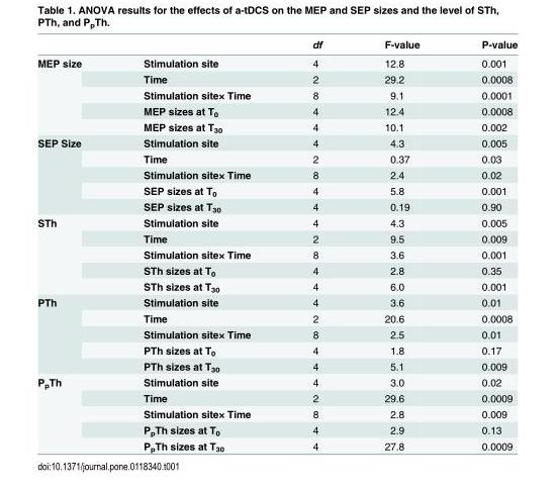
<table><thead><tr><td></td><td></td><td>df</td><td>F-value</td><td>P-value</td></tr></thead><tbody><tr><td rowspan="5">MEP size</td><td>Stimulation site</td><td>4</td><td>12.8</td><td>0.001</td></tr><tr><td>Time</td><td>2</td><td>29.2</td><td>0.0008</td></tr><tr><td>Stimulation site× Time</td><td>8</td><td>9.1</td><td>0.0001</td></tr><tr><td>MEP sizes at T<sub>0</sub></td><td>4</td><td>12.4</td><td>0.0008</td></tr><tr><td>MEP sizes at T<sub>30</sub></td><td>4</td><td>10.1</td><td>0.002</td></tr><tr><td rowspan="5">SEP Size</td><td>Stimulation site</td><td>4</td><td>4.3</td><td>0.005</td></tr><tr><td>Time</td><td>2</td><td>0.37</td><td>0.03</td></tr><tr><td>Stimulation site× Time</td><td>8</td><td>2.4</td><td>0.02</td></tr><tr><td>SEP sizes at T<sub>0</sub></td><td>4</td><td>5.8</td><td>0.001</td></tr><tr><td>SEP sizes at T<sub>30</sub></td><td>4</td><td>0.19</td><td>0.90</td></tr><tr><td rowspan="5">STh</td><td>Stimulation site</td><td>4</td><td>4.3</td><td>0.005</td></tr><tr><td>Time</td><td>2</td><td>9.5</td><td>0.009</td></tr><tr><td>Stimulation site× Time</td><td>8</td><td>3.6</td><td>0.001</td></tr><tr><td>STh sizes at T<sub>0</sub></td><td>4</td><td>2.8</td><td>0.35</td></tr><tr><td>STh sizes at T<sub>30</sub></td><td>4</td><td>6.0</td><td>0.001</td></tr><tr><td rowspan="5">PTh</td><td>Stimulation site</td><td>4</td><td>3.6</td><td>0.01</td></tr><tr><td>Time</td><td>2</td><td>20.6</td><td>0.0008</td></tr><tr><td>Stimulation site× Time</td><td>8</td><td>2.5</td><td>0.01</td></tr><tr><td>PTh sizes at T<sub>0</sub></td><td>4</td><td>1.8</td><td>0.17</td></tr><tr><td>PTh sizes at T<sub>30</sub></td><td>4</td><td>5.1</td><td>0.009</td></tr><tr><td rowspan="5">P<sub>p</sub>Th</td><td>Stimulation site</td><td>4</td><td>3.0</td><td>0.02</td></tr><tr><td>Time</td><td>2</td><td>29.6</td><td>0.0009</td></tr><tr><td>Stimulation site× Time</td><td>8</td><td>2.8</td><td>0.009</td></tr><tr><td>P<sub>p</sub>Th sizes at T<sub>0</sub></td><td>4</td><td>2.9</td><td>0.13</td></tr><tr><td>P<sub>p</sub>Th sizes at T<sub>30</sub></td><td>4</td><td>27.8</td><td>0.0009</td></tr></tbody></table>